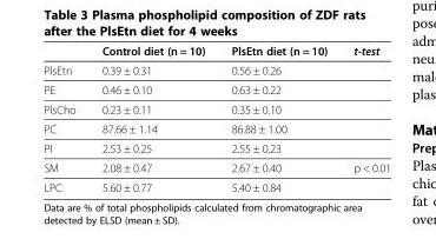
<table><thead><tr><td></td><td>Control diet (n = 10)</td><td>PlsEtn diet (n = 10)</td><td>t-test</td></tr></thead><tbody><tr><td>PlsEtn</td><td>0.39 ± 0.31</td><td>0.56 ± 0.26</td><td></td></tr><tr><td>PE</td><td>0.46 ± 0.10</td><td>0.63 ± 0.22</td><td></td></tr><tr><td>PlsCho</td><td>0.23 ± 0.11</td><td>0.35 ± 0.10</td><td></td></tr><tr><td>PC</td><td>87.66 ± 1.14</td><td>86.88 ± 1.00</td><td></td></tr><tr><td>PI</td><td>2.53 ± 0.25</td><td>2.55 ± 0.23</td><td></td></tr><tr><td>SM</td><td>2.08 ± 0.47</td><td>2.67 ± 0.40</td><td>p &lt; 0.01</td></tr><tr><td>LPC</td><td>5.60 ± 0.77</td><td>5.40 ± 0.84</td><td></td></tr></tbody></table>